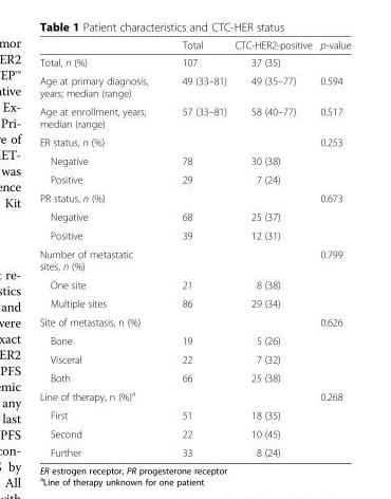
<table><thead><tr><td></td><td>Total</td><td>CTC-HER2-positive</td><td>p-value</td></tr></thead><tbody><tr><td>Total, n (%)</td><td>107</td><td>37 (35)</td><td></td></tr><tr><td>Age at primary diagnosis, years; median (range)</td><td>49 (33–81)</td><td>49 (35–77)</td><td>0.594</td></tr><tr><td>Age at enrollment, years; median (range)</td><td>57 (33–81)</td><td>58 (40–77)</td><td>0.517</td></tr><tr><td>ER status, n (%)</td><td></td><td></td><td>0.253</td></tr><tr><td>Negative</td><td>78</td><td>30 (38)</td><td></td></tr><tr><td>Positive</td><td>29</td><td>7 (24)</td><td></td></tr><tr><td>PR status, n (%)</td><td></td><td></td><td>0.673</td></tr><tr><td>Negative</td><td>68</td><td>25 (37)</td><td></td></tr><tr><td>Positive</td><td>39</td><td>12 (31)</td><td></td></tr><tr><td>Number of metastatic sites, n (%)</td><td></td><td></td><td>0.799</td></tr><tr><td>One site</td><td>21</td><td>8 (38)</td><td></td></tr><tr><td>Multiple sites</td><td>86</td><td>29 (34)</td><td></td></tr><tr><td>Site of metastasis, n (%)</td><td></td><td></td><td>0.626</td></tr><tr><td>Bone</td><td>19</td><td>5 (26)</td><td></td></tr><tr><td>Visceral</td><td>22</td><td>7 (32)</td><td></td></tr><tr><td>Both</td><td>66</td><td>25 (38)</td><td></td></tr><tr><td>Line of therapy, n (%)<sup>a</sup></td><td></td><td></td><td>0.268</td></tr><tr><td>First</td><td>51</td><td>18 (35)</td><td></td></tr><tr><td>Second</td><td>22</td><td>10 (45)</td><td></td></tr><tr><td>Further</td><td>33</td><td>8 (24)</td><td></td></tr></tbody></table>